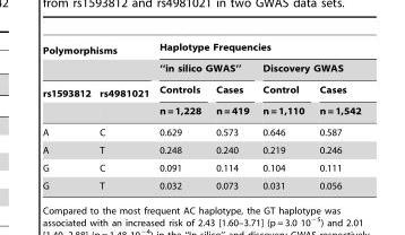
<table><thead><tr><td colspan="2">Polymorphisms</td><td colspan="4">Haplotype Frequencies</td></tr><tr><td rowspan="3">rs1593812</td><td rowspan="3">rs4981021</td><td colspan="2">‘‘in silico GWAS’’</td><td colspan="2">Discovery GWAS</td></tr><tr><td rowspan="2">Controls n = 1,228</td><td rowspan="2">Cases n = 419</td><td rowspan="2">Control n = 1,110</td><td rowspan="2">Cases n = 1,542</td></tr><tr></tr></thead><tbody><tr><td>A</td><td>C</td><td>0.629</td><td>0.573</td><td>0.646</td><td>0.587</td></tr><tr><td>A</td><td>T</td><td>0.248</td><td>0.240</td><td>0.219</td><td>0.246</td></tr><tr><td>G</td><td>C</td><td>0.091</td><td>0.114</td><td>0.104</td><td>0.111</td></tr><tr><td>G</td><td>T</td><td>0.032</td><td>0.073</td><td>0.031</td><td>0.056</td></tr></tbody></table>